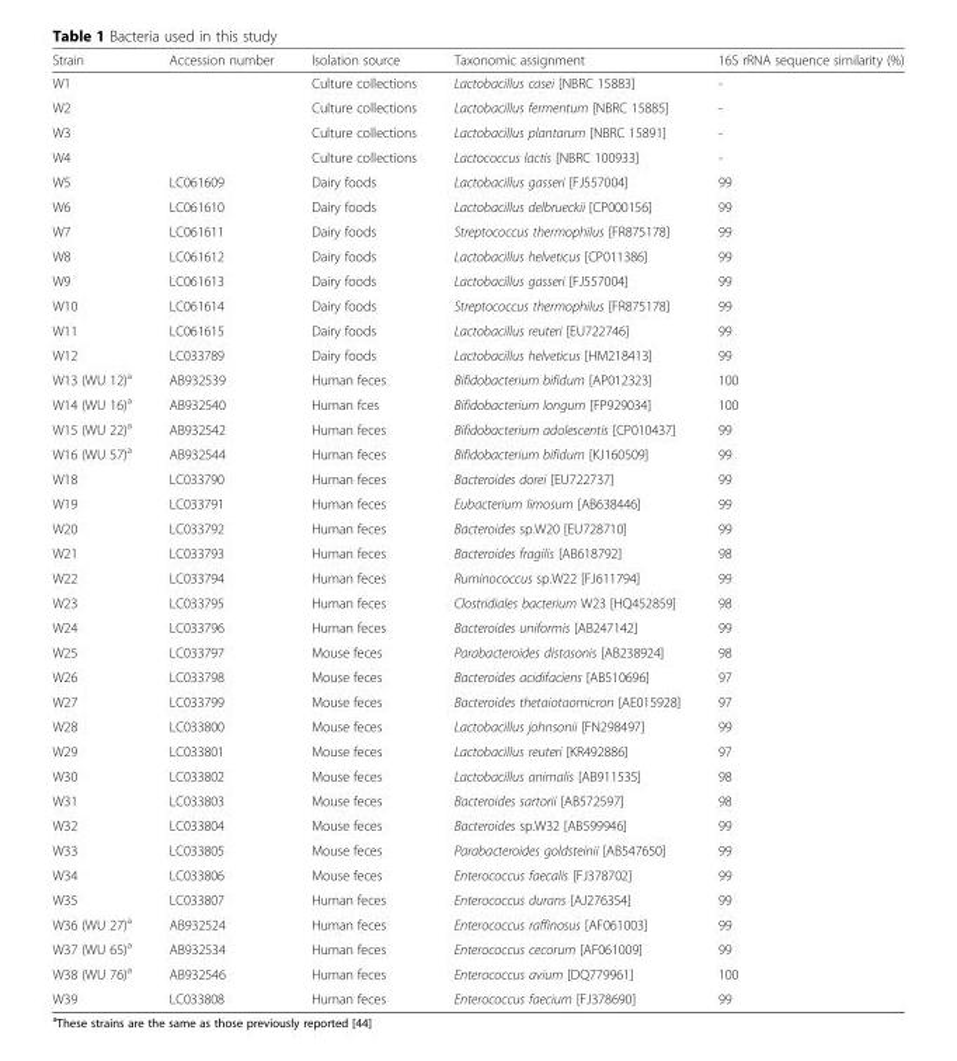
<table><thead><tr><td>Strain</td><td>Accession number</td><td>Isolation source</td><td>Taxonomic assignment</td><td>16S rRNA sequence similarity (%)</td></tr></thead><tbody><tr><td>W1</td><td></td><td>Culture collections</td><td>Lactobacillus casei [NBRC 15883]</td><td>-</td></tr><tr><td>W2</td><td></td><td>Culture collections</td><td>Lactobacillus fermentum [NBRC 15885]</td><td>-</td></tr><tr><td>W3</td><td></td><td>Culture collections</td><td>Lactobacillus plantarum [NBRC 15891]</td><td>-</td></tr><tr><td>W4</td><td></td><td>Culture collections</td><td>Lactococcus lactis [NBRC 100933]</td><td>-</td></tr><tr><td>W5</td><td>LC061609</td><td>Dairy foods</td><td>Lactobacillus gasseri [FJ557004]</td><td>99</td></tr><tr><td>W6</td><td>LC061610</td><td>Dairy foods</td><td>Lactobacillus delbrueckii [CP000156]</td><td>99</td></tr><tr><td>W7</td><td>LC061611</td><td>Dairy foods</td><td>Streptococcus thermophilus [FR875178]</td><td>99</td></tr><tr><td>W8</td><td>LC061612</td><td>Dairy foods</td><td>Lactobacillus helveticus [CP011386]</td><td>99</td></tr><tr><td>W9</td><td>LC061613</td><td>Dairy foods</td><td>Lactobacillus gasseri [FJ557004]</td><td>99</td></tr><tr><td>W10</td><td>LC061614</td><td>Dairy foods</td><td>Streptococcus thermophilus [FR875178]</td><td>99</td></tr><tr><td>W11</td><td>LC061615</td><td>Dairy foods</td><td>Lactobacillus reuteri [EU722746]</td><td>99</td></tr><tr><td>W12</td><td>LC033789</td><td>Dairy foods</td><td>Lactobacillus helveticus [HM218413]</td><td>99</td></tr><tr><td>W13 (WU 12)<sup>a</sup></td><td>AB932539</td><td>Human feces</td><td>Bifidobacterium bifidum [AP012323]</td><td>100</td></tr><tr><td>W14 (WU 16)<sup>a</sup></td><td>AB932540</td><td>Human fces</td><td>Bifidobacterium longum [FP929034]</td><td>100</td></tr><tr><td>W15 (WU 22)<sup>a</sup></td><td>AB932542</td><td>Human feces</td><td>Bifidobacterium adolescentis [CP010437]</td><td>99</td></tr><tr><td>W16 (WU 57)<sup>a</sup></td><td>AB932544</td><td>Human feces</td><td>Bifidobacterium bifidum [KJ160509]</td><td>99</td></tr><tr><td>W18</td><td>LC033790</td><td>Human feces</td><td>Bacteroides dorei [EU722737]</td><td>99</td></tr><tr><td>W19</td><td>LC033791</td><td>Human feces</td><td>Eubacterium limosum [AB638446]</td><td>99</td></tr><tr><td>W20</td><td>LC033792</td><td>Human feces</td><td>Bacteroides sp.W20 [EU728710]</td><td>99</td></tr><tr><td>W21</td><td>LC033793</td><td>Human feces</td><td>Bacteroides fragilis [AB618792]</td><td>98</td></tr><tr><td>W22</td><td>LC033794</td><td>Human feces</td><td>Ruminococcus sp.W22 [FJ611794]</td><td>99</td></tr><tr><td>W23</td><td>LC033795</td><td>Human feces</td><td>Clostridiales bacterium W23 [HQ452859]</td><td>98</td></tr><tr><td>W24</td><td>LC033796</td><td>Human feces</td><td>Bacteroides uniformis [AB247142]</td><td>99</td></tr><tr><td>W25</td><td>LC033797</td><td>Mouse feces</td><td>Parabacteroides distasonis [AB238924]</td><td>98</td></tr><tr><td>W26</td><td>LC033798</td><td>Mouse feces</td><td>Bacteroides acidifaciens [AB510696]</td><td>97</td></tr><tr><td>W27</td><td>LC033799</td><td>Mouse feces</td><td>Bacteroides thetaiotaomicron [AE015928]</td><td>97</td></tr><tr><td>W28</td><td>LC033800</td><td>Mouse feces</td><td>Lactobacillus johnsonii [FN298497]</td><td>99</td></tr><tr><td>W29</td><td>LC033801</td><td>Mouse feces</td><td>Lactobacillus reuteri [KR492886]</td><td>97</td></tr><tr><td>W30</td><td>LC033802</td><td>Mouse feces</td><td>Lactobacillus animalis [AB911535]</td><td>98</td></tr><tr><td>W31</td><td>LC033803</td><td>Mouse feces</td><td>Bacteroides sartorii [AB572597]</td><td>98</td></tr><tr><td>W32</td><td>LC033804</td><td>Mouse feces</td><td>Bacteroides sp.W32 [AB599946]</td><td>99</td></tr><tr><td>W33</td><td>LC033805</td><td>Mouse feces</td><td>Parabacteroides goldsteinii [AB547650]</td><td>99</td></tr><tr><td>W34</td><td>LC033806</td><td>Mouse feces</td><td>Enterococcus faecalis [FJ378702]</td><td>99</td></tr><tr><td>W35</td><td>LC033807</td><td>Human feces</td><td>Enterococcus durans [AJ276354]</td><td>99</td></tr><tr><td>W36 (WU 27)<sup>a</sup></td><td>AB932524</td><td>Human feces</td><td>Enterococcus raffinosus [AF061003]</td><td>99</td></tr><tr><td>W37 (WU 65)<sup>a</sup></td><td>AB932534</td><td>Human feces</td><td>Enterococcus cecorum [AF061009]</td><td>99</td></tr><tr><td>W38 (WU 76)<sup>a</sup></td><td>AB932546</td><td>Human feces</td><td>Enterococcus avium [DQ779961]</td><td>100</td></tr><tr><td>W39</td><td>LC033808</td><td>Human feces</td><td>Enterococcus faecium [FJ378690]</td><td>99</td></tr></tbody></table>